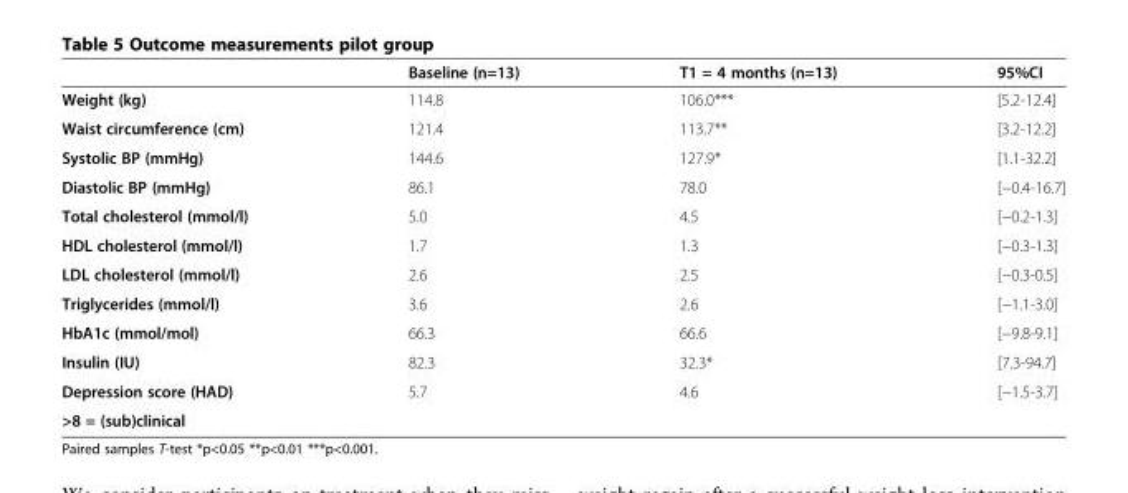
<table><thead><tr><td></td><td>Baseline (n=13)</td><td>T1 = 4 months (n=13)</td><td>95%CI</td></tr></thead><tbody><tr><td>Weight (kg)</td><td>114.8</td><td>106.0***</td><td>[5.2-12.4]</td></tr><tr><td>Waist circumference (cm)</td><td>121.4</td><td>113.7**</td><td>[3.2-12.2]</td></tr><tr><td>Systolic BP (mmHg)</td><td>144.6</td><td>127.9*</td><td>[1.1-32.2]</td></tr><tr><td>Diastolic BP (mmHg)</td><td>86.1</td><td>78.0</td><td>[−0.4-16.7]</td></tr><tr><td>Total cholesterol (mmol/l)</td><td>5.0</td><td>4.5</td><td>[−0.2-1.3]</td></tr><tr><td>HDL cholesterol (mmol/l)</td><td>1.7</td><td>1.3</td><td>[−0.3-1.3]</td></tr><tr><td>LDL cholesterol (mmol/l)</td><td>2.6</td><td>2.5</td><td>[−0.3-0.5]</td></tr><tr><td>Triglycerides (mmol/l)</td><td>3.6</td><td>2.6</td><td>[−1.1-3.0]</td></tr><tr><td>HbA1c (mmol/mol)</td><td>66.3</td><td>66.6</td><td>[−9.8-9.1]</td></tr><tr><td>Insulin (IU)</td><td>82.3</td><td>32.3*</td><td>[7.3-94.7]</td></tr><tr><td>Depression score (HAD)</td><td>5.7</td><td>4.6</td><td>[−1.5-3.7]</td></tr><tr><td>&gt;8 = (sub)clinical</td><td></td><td></td><td></td></tr></tbody></table>